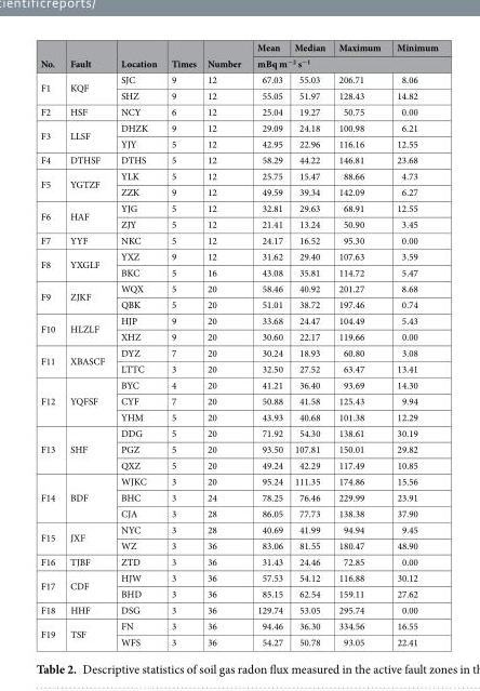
<table><thead><tr><td rowspan="2">No.</td><td rowspan="2">Fault</td><td rowspan="2">Location</td><td rowspan="2">Times</td><td rowspan="2">Number</td><td>Mean</td><td>Median</td><td>Maximum</td><td>Minimum</td></tr><tr><td colspan="4">mBq m<sup>−2</sup> s<sup>−1</sup></td></tr></thead><tbody><tr><td rowspan="2">F1</td><td rowspan="2">KQF</td><td>SJC</td><td>9</td><td>12</td><td>67.03</td><td>55.03</td><td>206.71</td><td>8.06</td></tr><tr><td>SHZ</td><td>9</td><td>12</td><td>55.05</td><td>51.97</td><td>128.43</td><td>14.82</td></tr><tr><td>F2</td><td>HSF</td><td>NCY</td><td>6</td><td>12</td><td>25.04</td><td>19.27</td><td>50.75</td><td>0.00</td></tr><tr><td rowspan="2">F3</td><td rowspan="2">LLSF</td><td>DHZK</td><td>9</td><td>12</td><td>29.09</td><td>24.18</td><td>100.98</td><td>6.21</td></tr><tr><td>YJY</td><td>5</td><td>12</td><td>42.95</td><td>22.96</td><td>116.16</td><td>12.55</td></tr><tr><td>F4</td><td>DTHSF</td><td>DTHS</td><td>5</td><td>12</td><td>58.29</td><td>44.22</td><td>146.81</td><td>23.68</td></tr><tr><td rowspan="2">F5</td><td rowspan="2">YGTZF</td><td>YLK</td><td>5</td><td>12</td><td>25.75</td><td>15.47</td><td>88.66</td><td>4.73</td></tr><tr><td>ZZK</td><td>9</td><td>12</td><td>49.59</td><td>39.34</td><td>142.09</td><td>6.27</td></tr><tr><td rowspan="2">F6</td><td rowspan="2">HAF</td><td>YJG</td><td>5</td><td>12</td><td>32.81</td><td>29.63</td><td>68.91</td><td>12.55</td></tr><tr><td>ZJY</td><td>5</td><td>12</td><td>21.41</td><td>13.24</td><td>50.90</td><td>3.45</td></tr><tr><td>F7</td><td>YYF</td><td>NKC</td><td>5</td><td>12</td><td>24.17</td><td>16.52</td><td>95.30</td><td>0.00</td></tr><tr><td rowspan="2">F8</td><td rowspan="2">YXGLF</td><td>YXZ</td><td>9</td><td>12</td><td>31.62</td><td>29.40</td><td>107.63</td><td>3.59</td></tr><tr><td>BKC</td><td>5</td><td>16</td><td>43.08</td><td>35.81</td><td>114.72</td><td>5.47</td></tr><tr><td rowspan="2">F9</td><td rowspan="2">ZJKF</td><td>WQX</td><td>5</td><td>20</td><td>58.46</td><td>40.92</td><td>201.27</td><td>8.68</td></tr><tr><td>QBK</td><td>5</td><td>20</td><td>51.01</td><td>38.72</td><td>197.46</td><td>0.74</td></tr><tr><td rowspan="2">F10</td><td rowspan="2">HLZLF</td><td>HJP</td><td>9</td><td>20</td><td>33.68</td><td>24.47</td><td>104.49</td><td>5.43</td></tr><tr><td>XHZ</td><td>9</td><td>20</td><td>30.60</td><td>22.17</td><td>119.66</td><td>0.00</td></tr><tr><td rowspan="2">F11</td><td rowspan="2">XBASCF</td><td>DYZ</td><td>7</td><td>20</td><td>30.24</td><td>18.93</td><td>60.80</td><td>3.08</td></tr><tr><td>LTTC</td><td>3</td><td>20</td><td>32.50</td><td>27.52</td><td>63.47</td><td>13.41</td></tr><tr><td rowspan="3">F12</td><td rowspan="3">YQFSF</td><td>BYC</td><td>4</td><td>20</td><td>41.21</td><td>36.40</td><td>93.69</td><td>14.30</td></tr><tr><td>CYF</td><td>7</td><td>20</td><td>50.88</td><td>41.58</td><td>125.43</td><td>9.94</td></tr><tr><td>YHM</td><td>5</td><td>20</td><td>43.93</td><td>40.68</td><td>101.38</td><td>12.29</td></tr><tr><td rowspan="3">F13</td><td rowspan="3">SHF</td><td>DDG</td><td>5</td><td>20</td><td>71.92</td><td>54.30</td><td>138.61</td><td>30.19</td></tr><tr><td>PGZ</td><td>5</td><td>20</td><td>93.50</td><td>107.81</td><td>150.01</td><td>29.82</td></tr><tr><td>QXZ</td><td>5</td><td>20</td><td>49.24</td><td>42.29</td><td>117.49</td><td>10.85</td></tr><tr><td rowspan="3">F14</td><td rowspan="3">BDF</td><td>WJKC</td><td>3</td><td>20</td><td>95.24</td><td>111.35</td><td>174.86</td><td>15.56</td></tr><tr><td>BHC</td><td>3</td><td>24</td><td>78.25</td><td>76.46</td><td>229.99</td><td>23.91</td></tr><tr><td>CJA</td><td>3</td><td>28</td><td>86.05</td><td>77.73</td><td>138.38</td><td>37.90</td></tr><tr><td rowspan="2">F15</td><td rowspan="2">JXF</td><td>NYC</td><td>3</td><td>28</td><td>40.69</td><td>41.99</td><td>94.94</td><td>9.45</td></tr><tr><td>WZ</td><td>3</td><td>36</td><td>83.06</td><td>81.55</td><td>180.47</td><td>48.90</td></tr><tr><td>F16</td><td>TJBF</td><td>ZTD</td><td>3</td><td>36</td><td>31.43</td><td>24.46</td><td>72.85</td><td>0.00</td></tr><tr><td rowspan="2">F17</td><td rowspan="2">CDF</td><td>HJW</td><td>3</td><td>36</td><td>57.53</td><td>54.12</td><td>116.88</td><td>30.12</td></tr><tr><td>BHD</td><td>3</td><td>36</td><td>85.15</td><td>62.54</td><td>159.11</td><td>27.62</td></tr><tr><td>F18</td><td>HHF</td><td>DSG</td><td>3</td><td>36</td><td>129.74</td><td>53.05</td><td>295.74</td><td>0.00</td></tr><tr><td rowspan="2">F19</td><td rowspan="2">TSF</td><td>FN</td><td>3</td><td>36</td><td>94.46</td><td>36.30</td><td>334.56</td><td>16.55</td></tr><tr><td>WFS</td><td>3</td><td>36</td><td>54.27</td><td>50.78</td><td>93.05</td><td>22.41</td></tr></tbody></table>